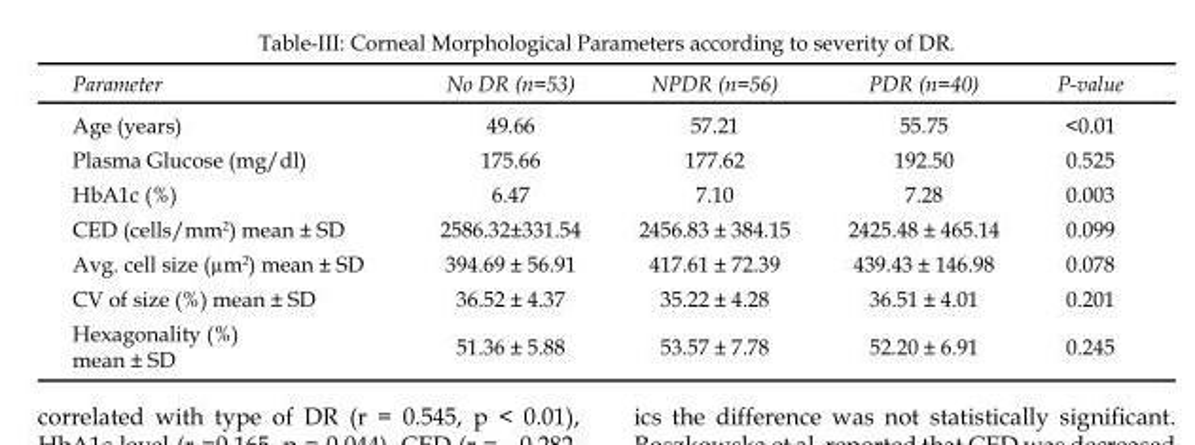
<table><thead><tr><td>Parameter</td><td>No DR (n=53)</td><td>NPDR (n=56)</td><td>PDR (n=40)</td><td>P-value</td></tr></thead><tbody><tr><td>Age (years)</td><td>49.66</td><td>57.21</td><td>55.75</td><td>&lt;0.01</td></tr><tr><td>Plasma Glucose (mg/dl)</td><td>175.66</td><td>177.62</td><td>192.50</td><td>0.525</td></tr><tr><td>HbA1c (%)</td><td>6.47</td><td>7.10</td><td>7.28</td><td>0.003</td></tr><tr><td>CED (cells/mm<sup>2</sup>) mean ± SD</td><td>2586.32±331.54</td><td>2456.83 ± 384.15</td><td>2425.48 ± 465.14</td><td>0.099</td></tr><tr><td>Avg. cell size (µm<sup>2</sup>) mean ± SD</td><td>394.69 ± 56.91</td><td>417.61 ± 72.39</td><td>439.43 ± 146.98</td><td>0.078</td></tr><tr><td>CV of size (%) mean ± SD</td><td>36.52 ± 4.37</td><td>35.22 ± 4.28</td><td>36.51 ± 4.01</td><td>0.201</td></tr><tr><td>Hexagonality (%) mean ± SD</td><td>51.36 ± 5.88</td><td>53.57 ± 7.78</td><td>52.20 ± 6.91</td><td>0.245</td></tr></tbody></table>